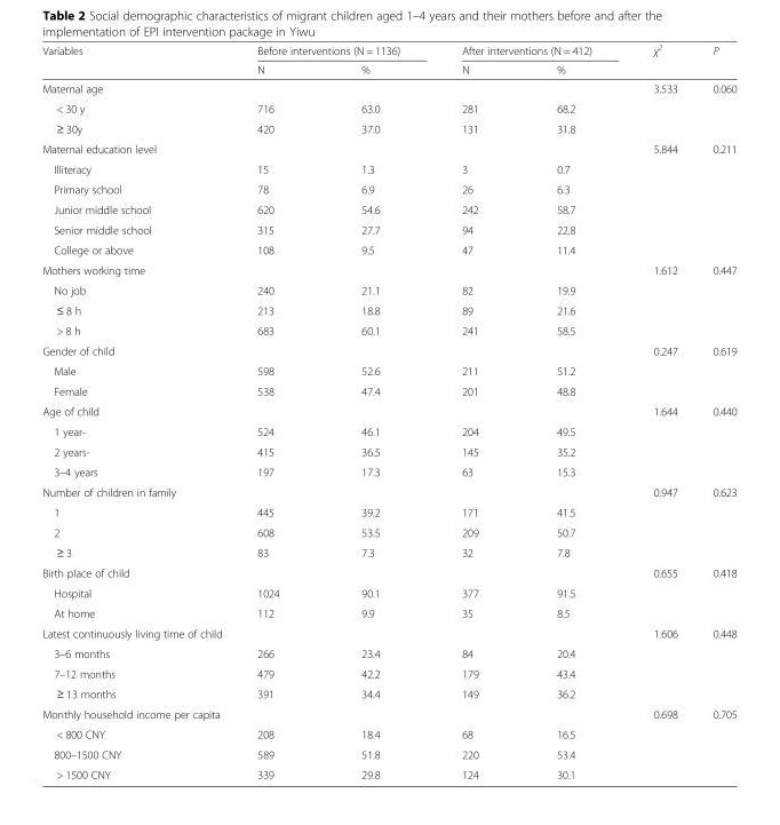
<table><thead><tr><td rowspan="2">Variables</td><td colspan="2">Before interventions (N = 1136)</td><td colspan="2">After interventions (N = 412)</td><td rowspan="2">χ<sup>2</sup></td><td rowspan="2">P</td></tr><tr><td>N</td><td>%</td><td>N</td><td>%</td></tr></thead><tbody><tr><td>Maternal age</td><td></td><td></td><td></td><td></td><td>3.533</td><td>0.060</td></tr><tr><td>&lt; 30 y</td><td>716</td><td>63.0</td><td>281</td><td>68.2</td><td></td><td></td></tr><tr><td>≥ 30y</td><td>420</td><td>37.0</td><td>131</td><td>31.8</td><td></td><td></td></tr><tr><td>Maternal education level</td><td></td><td></td><td></td><td></td><td>5.844</td><td>0.211</td></tr><tr><td>Illiteracy</td><td>15</td><td>1.3</td><td>3</td><td>0.7</td><td></td><td></td></tr><tr><td>Primary school</td><td>78</td><td>6.9</td><td>26</td><td>6.3</td><td></td><td></td></tr><tr><td>Junior middle school</td><td>620</td><td>54.6</td><td>242</td><td>58.7</td><td></td><td></td></tr><tr><td>Senior middle school</td><td>315</td><td>27.7</td><td>94</td><td>22.8</td><td></td><td></td></tr><tr><td>College or above</td><td>108</td><td>9.5</td><td>47</td><td>11.4</td><td></td><td></td></tr><tr><td>Mothers working time</td><td></td><td></td><td></td><td></td><td>1.612</td><td>0.447</td></tr><tr><td>No job</td><td>240</td><td>21.1</td><td>82</td><td>19.9</td><td></td><td></td></tr><tr><td>≤ 8 h</td><td>213</td><td>18.8</td><td>89</td><td>21.6</td><td></td><td></td></tr><tr><td>&gt; 8 h</td><td>683</td><td>60.1</td><td>241</td><td>58.5</td><td></td><td></td></tr><tr><td>Gender of child</td><td></td><td></td><td></td><td></td><td>0.247</td><td>0.619</td></tr><tr><td>Male</td><td>598</td><td>52.6</td><td>211</td><td>51.2</td><td></td><td></td></tr><tr><td>Female</td><td>538</td><td>47.4</td><td>201</td><td>48.8</td><td></td><td></td></tr><tr><td>Age of child</td><td></td><td></td><td></td><td></td><td>1.644</td><td>0.440</td></tr><tr><td>1 year-</td><td>524</td><td>46.1</td><td>204</td><td>49.5</td><td></td><td></td></tr><tr><td>2 years-</td><td>415</td><td>36.5</td><td>145</td><td>35.2</td><td></td><td></td></tr><tr><td>3–4 years</td><td>197</td><td>17.3</td><td>63</td><td>15.3</td><td></td><td></td></tr><tr><td>Number of children in family</td><td></td><td></td><td></td><td></td><td>0.947</td><td>0.623</td></tr><tr><td>1</td><td>445</td><td>39.2</td><td>171</td><td>41.5</td><td></td><td></td></tr><tr><td>2</td><td>608</td><td>53.5</td><td>209</td><td>50.7</td><td></td><td></td></tr><tr><td>≥ 3</td><td>83</td><td>7.3</td><td>32</td><td>7.8</td><td></td><td></td></tr><tr><td>Birth place of child</td><td></td><td></td><td></td><td></td><td>0.655</td><td>0.418</td></tr><tr><td>Hospital</td><td>1024</td><td>90.1</td><td>377</td><td>91.5</td><td></td><td></td></tr><tr><td>At home</td><td>112</td><td>9.9</td><td>35</td><td>8.5</td><td></td><td></td></tr><tr><td>Latest continuously living time of child</td><td></td><td></td><td></td><td></td><td>1.606</td><td>0.448</td></tr><tr><td>3–6 months</td><td>266</td><td>23.4</td><td>84</td><td>20.4</td><td></td><td></td></tr><tr><td>7–12 months</td><td>479</td><td>42.2</td><td>179</td><td>43.4</td><td></td><td></td></tr><tr><td>≥ 13 months</td><td>391</td><td>34.4</td><td>149</td><td>36.2</td><td></td><td></td></tr><tr><td>Monthly household income per capita</td><td></td><td></td><td></td><td></td><td>0.698</td><td>0.705</td></tr><tr><td>&lt; 800 CNY</td><td>208</td><td>18.4</td><td>68</td><td>16.5</td><td></td><td></td></tr><tr><td>800–1500 CNY</td><td>589</td><td>51.8</td><td>220</td><td>53.4</td><td></td><td></td></tr><tr><td>&gt; 1500 CNY</td><td>339</td><td>29.8</td><td>124</td><td>30.1</td><td></td><td></td></tr></tbody></table>